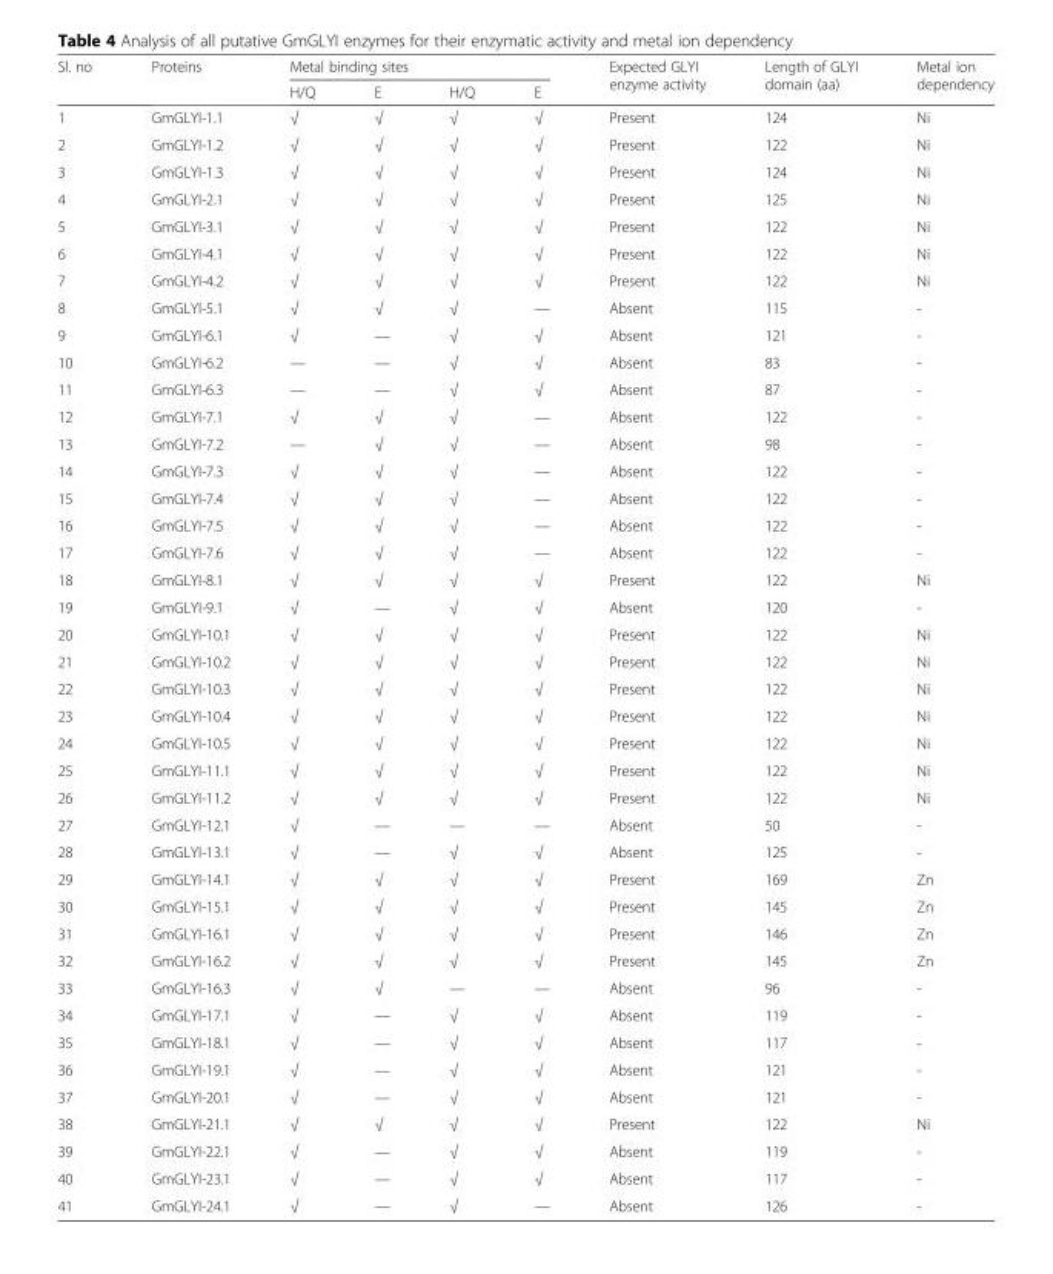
<table><thead><tr><td rowspan="2">Sl. no</td><td rowspan="2">Proteins</td><td colspan="4">Metal binding sites</td><td rowspan="2">Expected GLYI enzyme activity</td><td rowspan="2">Length of GLYI domain (aa)</td><td rowspan="2">Metal ion dependency</td></tr><tr><td>H/Q</td><td>E</td><td>H/Q</td><td>E</td></tr></thead><tbody><tr><td>1</td><td>GmGLYI-1.1</td><td>√</td><td>√</td><td>√</td><td>√</td><td>Present</td><td>124</td><td>Ni</td></tr><tr><td>2</td><td>GmGLYI-1.2</td><td>√</td><td>√</td><td>√</td><td>√</td><td>Present</td><td>122</td><td>Ni</td></tr><tr><td>3</td><td>GmGLYI-1.3</td><td>√</td><td>√</td><td>√</td><td>√</td><td>Present</td><td>124</td><td>Ni</td></tr><tr><td>4</td><td>GmGLYI-2.1</td><td>√</td><td>√</td><td>√</td><td>√</td><td>Present</td><td>125</td><td>Ni</td></tr><tr><td>5</td><td>GmGLYI-3.1</td><td>√</td><td>√</td><td>√</td><td>√</td><td>Present</td><td>122</td><td>Ni</td></tr><tr><td>6</td><td>GmGLYI-4.1</td><td>√</td><td>√</td><td>√</td><td>√</td><td>Present</td><td>122</td><td>Ni</td></tr><tr><td>7</td><td>GmGLYI-4.2</td><td>√</td><td>√</td><td>√</td><td>√</td><td>Present</td><td>122</td><td>Ni</td></tr><tr><td>8</td><td>GmGLYI-5.1</td><td>√</td><td>√</td><td>√</td><td>—</td><td>Absent</td><td>115</td><td>-</td></tr><tr><td>9</td><td>GmGLYI-6.1</td><td>√</td><td>—</td><td>√</td><td>√</td><td>Absent</td><td>121</td><td>-</td></tr><tr><td>10</td><td>GmGLYI-6.2</td><td>—</td><td>—</td><td>√</td><td>√</td><td>Absent</td><td>83</td><td>-</td></tr><tr><td>11</td><td>GmGLYI-6.3</td><td>—</td><td>—</td><td>√</td><td>√</td><td>Absent</td><td>87</td><td>-</td></tr><tr><td>12</td><td>GmGLYI-7.1</td><td>√</td><td>√</td><td>√</td><td>—</td><td>Absent</td><td>122</td><td>-</td></tr><tr><td>13</td><td>GmGLYI-7.2</td><td>—</td><td>√</td><td>√</td><td>—</td><td>Absent</td><td>98</td><td>-</td></tr><tr><td>14</td><td>GmGLYI-7.3</td><td>√</td><td>√</td><td>√</td><td>—</td><td>Absent</td><td>122</td><td>-</td></tr><tr><td>15</td><td>GmGLYI-7.4</td><td>√</td><td>√</td><td>√</td><td>—</td><td>Absent</td><td>122</td><td>-</td></tr><tr><td>16</td><td>GmGLYI-7.5</td><td>√</td><td>√</td><td>√</td><td>—</td><td>Absent</td><td>122</td><td>-</td></tr><tr><td>17</td><td>GmGLYI-7.6</td><td>√</td><td>√</td><td>√</td><td>—</td><td>Absent</td><td>122</td><td>-</td></tr><tr><td>18</td><td>GmGLYI-8.1</td><td>√</td><td>√</td><td>√</td><td>√</td><td>Present</td><td>122</td><td>Ni</td></tr><tr><td>19</td><td>GmGLYI-9.1</td><td>√</td><td>—</td><td>√</td><td>√</td><td>Absent</td><td>120</td><td>-</td></tr><tr><td>20</td><td>GmGLYI-10.1</td><td>√</td><td>√</td><td>√</td><td>√</td><td>Present</td><td>122</td><td>Ni</td></tr><tr><td>21</td><td>GmGLYI-10.2</td><td>√</td><td>√</td><td>√</td><td>√</td><td>Present</td><td>122</td><td>Ni</td></tr><tr><td>22</td><td>GmGLYI-10.3</td><td>√</td><td>√</td><td>√</td><td>√</td><td>Present</td><td>122</td><td>Ni</td></tr><tr><td>23</td><td>GmGLYI-10.4</td><td>√</td><td>√</td><td>√</td><td>√</td><td>Present</td><td>122</td><td>Ni</td></tr><tr><td>24</td><td>GmGLYI-10.5</td><td>√</td><td>√</td><td>√</td><td>√</td><td>Present</td><td>122</td><td>Ni</td></tr><tr><td>25</td><td>GmGLYI-11.1</td><td>√</td><td>√</td><td>√</td><td>√</td><td>Present</td><td>122</td><td>Ni</td></tr><tr><td>26</td><td>GmGLYI-11.2</td><td>√</td><td>√</td><td>√</td><td>√</td><td>Present</td><td>122</td><td>Ni</td></tr><tr><td>27</td><td>GmGLYI-12.1</td><td>√</td><td>—</td><td>—</td><td>—</td><td>Absent</td><td>50</td><td>-</td></tr><tr><td>28</td><td>GmGLYI-13.1</td><td>√</td><td>—</td><td>√</td><td>√</td><td>Absent</td><td>125</td><td>-</td></tr><tr><td>29</td><td>GmGLYI-14.1</td><td>√</td><td>√</td><td>√</td><td>√</td><td>Present</td><td>169</td><td>Zn</td></tr><tr><td>30</td><td>GmGLYI-15.1</td><td>√</td><td>√</td><td>√</td><td>√</td><td>Present</td><td>145</td><td>Zn</td></tr><tr><td>31</td><td>GmGLYI-16.1</td><td>√</td><td>√</td><td>√</td><td>√</td><td>Present</td><td>146</td><td>Zn</td></tr><tr><td>32</td><td>GmGLYI-16.2</td><td>√</td><td>√</td><td>√</td><td>√</td><td>Present</td><td>145</td><td>Zn</td></tr><tr><td>33</td><td>GmGLYI-16.3</td><td>√</td><td>√</td><td>—</td><td>—</td><td>Absent</td><td>96</td><td>-</td></tr><tr><td>34</td><td>GmGLYI-17.1</td><td>√</td><td>—</td><td>√</td><td>√</td><td>Absent</td><td>119</td><td>-</td></tr><tr><td>35</td><td>GmGLYI-18.1</td><td>√</td><td>—</td><td>√</td><td>√</td><td>Absent</td><td>117</td><td>-</td></tr><tr><td>36</td><td>GmGLYI-19.1</td><td>√</td><td>—</td><td>√</td><td>√</td><td>Absent</td><td>121</td><td>-</td></tr><tr><td>37</td><td>GmGLYI-20.1</td><td>√</td><td>—</td><td>√</td><td>√</td><td>Absent</td><td>121</td><td>-</td></tr><tr><td>38</td><td>GmGLYI-21.1</td><td>√</td><td>√</td><td>√</td><td>√</td><td>Present</td><td>122</td><td>Ni</td></tr><tr><td>39</td><td>GmGLYI-22.1</td><td>√</td><td>—</td><td>√</td><td>√</td><td>Absent</td><td>119</td><td>-</td></tr><tr><td>40</td><td>GmGLYI-23.1</td><td>√</td><td>—</td><td>√</td><td>√</td><td>Absent</td><td>117</td><td>-</td></tr><tr><td>41</td><td>GmGLYI-24.1</td><td>√</td><td>—</td><td>√</td><td>—</td><td>Absent</td><td>126</td><td>-</td></tr></tbody></table>